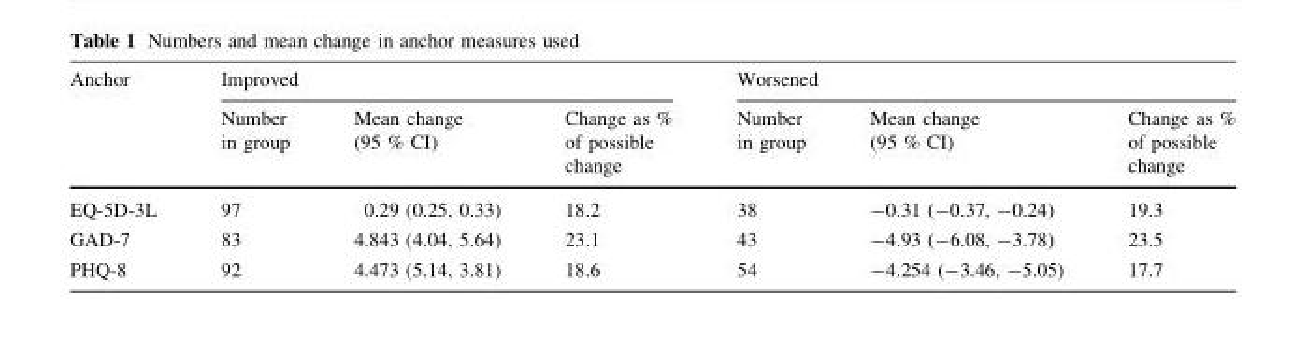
<table><thead><tr><td rowspan="2">Anchor</td><td colspan="3">Improved</td><td colspan="3">Worsened</td></tr><tr><td>Number in group</td><td>Mean change (95 % CI)</td><td>Change as % of possible change</td><td>Number in group</td><td>Mean change (95 % CI)</td><td>Change as % of possible change</td></tr></thead><tbody><tr><td>EQ-5D-3L</td><td>97</td><td>0.29 (0.25, 0.33)</td><td>18.2</td><td>38</td><td>-0.31 (-0.37, -0.24)</td><td>19.3</td></tr><tr><td>GAD-7</td><td>83</td><td>4.843 (4.04, 5.64)</td><td>23.1</td><td>43</td><td>-4.93 (-6.08, -3.78)</td><td>23.5</td></tr><tr><td>PHQ-8</td><td>92</td><td>4.473 (5.14, 3.81)</td><td>18.6</td><td>54</td><td>-4.254 (-3.46, -5.05)</td><td>17.7</td></tr></tbody></table>